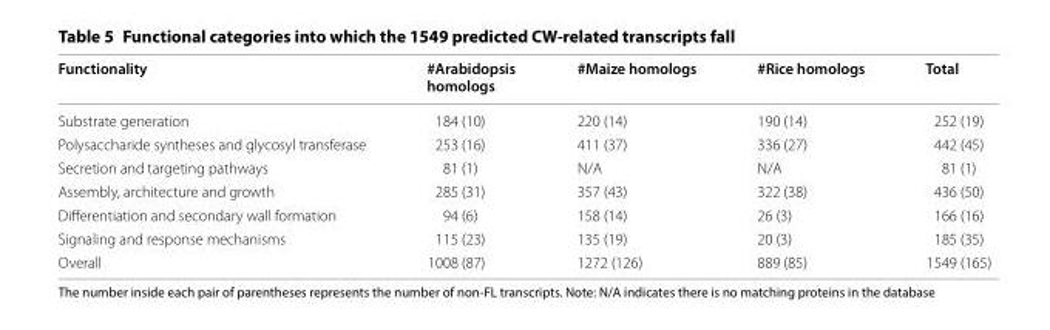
<table><thead><tr><td>Functionality</td><td>#Arabidopsis homologs</td><td>#Maize homologs</td><td>#Rice homologs</td><td>Total</td></tr></thead><tbody><tr><td>Substrate generation</td><td>184 (10)</td><td>220 (14)</td><td>190 (14)</td><td>252 (19)</td></tr><tr><td>Polysaccharide syntheses and glycosyl transferase</td><td>253 (16)</td><td>411 (37)</td><td>336 (27)</td><td>442 (45)</td></tr><tr><td>Secretion and targeting pathways</td><td>81 (1)</td><td>N/A</td><td>N/A</td><td>81 (1)</td></tr><tr><td>Assembly, architecture and growth</td><td>285 (31)</td><td>357 (43)</td><td>322 (38)</td><td>436 (50)</td></tr><tr><td>Differentiation and secondary wall formation</td><td>94 (6)</td><td>158 (14)</td><td>26 (3)</td><td>166 (16)</td></tr><tr><td>Signaling and response mechanisms</td><td>115 (23)</td><td>135 (19)</td><td>20 (3)</td><td>185 (35)</td></tr><tr><td>Overall</td><td>1008 (87)</td><td>1272 (126)</td><td>889 (85)</td><td>1549 (165)</td></tr></tbody></table>